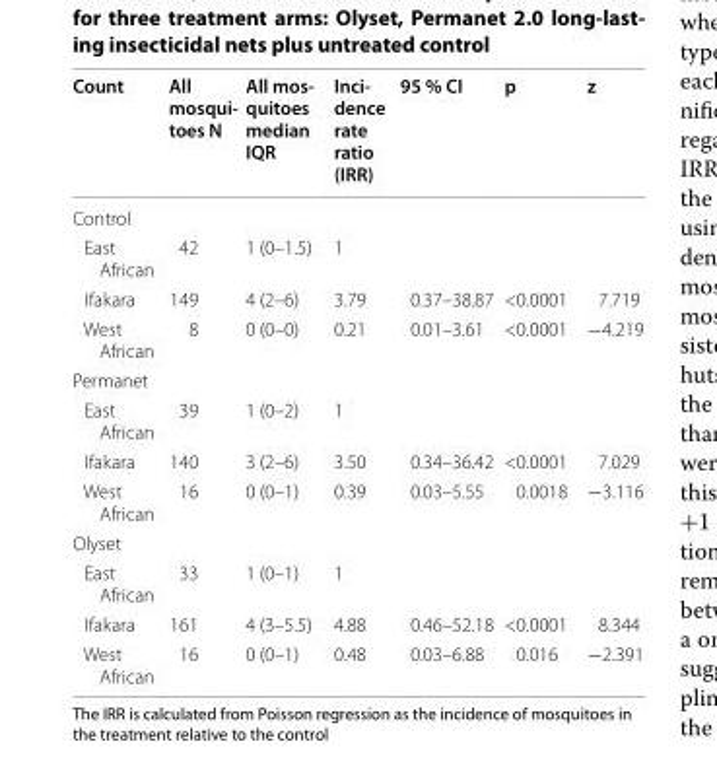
<table><thead><tr><td>Count</td><td>All mosqui‑ toes N</td><td>All mos‑ quitoes median IQR</td><td>Inci‑ dence rate ratio (IRR)</td><td>95 % CI</td><td>p</td><td>z</td></tr></thead><tbody><tr><td colspan="7">Control</td></tr><tr><td>East African</td><td>42</td><td>1 (0–1.5)</td><td>1</td><td></td><td></td><td></td></tr><tr><td>Ifakara</td><td>149</td><td>4 (2–6)</td><td>3.79</td><td>0.37–38.87</td><td>&lt;0.0001</td><td>7.719</td></tr><tr><td>West African</td><td>8</td><td>0 (0–0)</td><td>0.21</td><td>0.01–3.61</td><td>&lt;0.0001</td><td>−4.219</td></tr><tr><td colspan="7">Permanet</td></tr><tr><td>East African</td><td>39</td><td>1 (0–2)</td><td>1</td><td></td><td></td><td></td></tr><tr><td>Ifakara</td><td>140</td><td>3 (2–6)</td><td>3.50</td><td>0.34–36.42</td><td>&lt;0.0001</td><td>7.029</td></tr><tr><td>West African</td><td>16</td><td>0 (0–1)</td><td>0.39</td><td>0.03–5.55</td><td>0.0018</td><td>−3.116</td></tr><tr><td colspan="7">Olyset</td></tr><tr><td>East African</td><td>33</td><td>1 (0–1)</td><td>1</td><td></td><td></td><td></td></tr><tr><td>Ifakara</td><td>161</td><td>4 (3–5.5)</td><td>4.88</td><td>0.46–52.18</td><td>&lt;0.0001</td><td>8.344</td></tr><tr><td>West African</td><td>16</td><td>0 (0–1)</td><td>0.48</td><td>0.03–6.88</td><td>0.016</td><td>−2.391</td></tr></tbody></table>